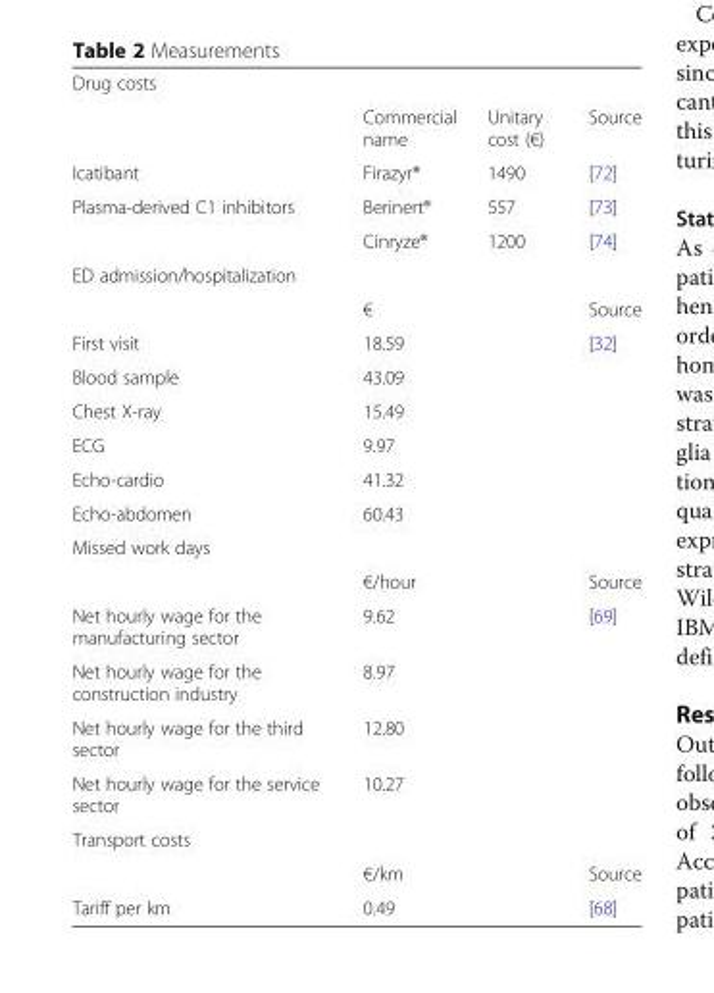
<table><tbody><tr><td colspan="4">Drug costs</td></tr><tr><td></td><td>Commercial name</td><td>Unitary cost (€)</td><td>Source</td></tr><tr><td>Icatibant</td><td>Firazyr®</td><td>1490</td><td>[72]</td></tr><tr><td rowspan="2">Plasma-derived C1 inhibitors</td><td>Berinert®</td><td>557</td><td>[73]</td></tr><tr><td>Cinryze®</td><td>1200</td><td>[74]</td></tr><tr><td colspan="4">ED admission/hospitalization</td></tr><tr><td></td><td colspan="2">€</td><td>Source</td></tr><tr><td>First visit</td><td colspan="2">18.59</td><td rowspan="6">[32]</td></tr><tr><td>Blood sample</td><td colspan="2">43.09</td></tr><tr><td>Chest X-ray</td><td colspan="2">15.49</td></tr><tr><td>ECG</td><td colspan="2">9.97</td></tr><tr><td>Echo-cardio</td><td colspan="2">41.32</td></tr><tr><td>Echo-abdomen</td><td colspan="2">60.43</td></tr><tr><td colspan="4">Missed work days</td></tr><tr><td></td><td colspan="2">€/hour</td><td>Source</td></tr><tr><td>Net hourly wage for the manufacturing sector</td><td colspan="2">9.62</td><td rowspan="4">[69]</td></tr><tr><td>Net hourly wage for the construction industry</td><td colspan="2">8.97</td></tr><tr><td>Net hourly wage for the third sector</td><td colspan="2">12.80</td></tr><tr><td>Net hourly wage for the service sector</td><td colspan="2">10.27</td></tr><tr><td colspan="4">Transport costs</td></tr><tr><td></td><td colspan="2">€/km</td><td>Source</td></tr><tr><td>Tariff per km</td><td colspan="2">0.49</td><td>[68]</td></tr></tbody></table>